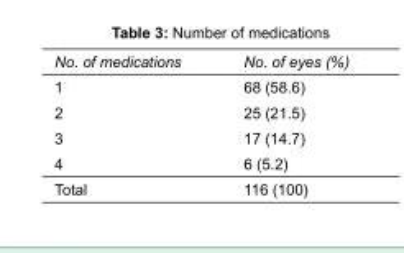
<table><tbody><tr><td>No. of medications</td><td>No. of eyes (%)</td></tr><tr><td>1</td><td>68 (58.6)</td></tr><tr><td>2</td><td>25 (21.5)</td></tr><tr><td>3</td><td>17 (14.7)</td></tr><tr><td>4</td><td>6 (5.2)</td></tr><tr><td>Total</td><td>116 (100)</td></tr></tbody></table>